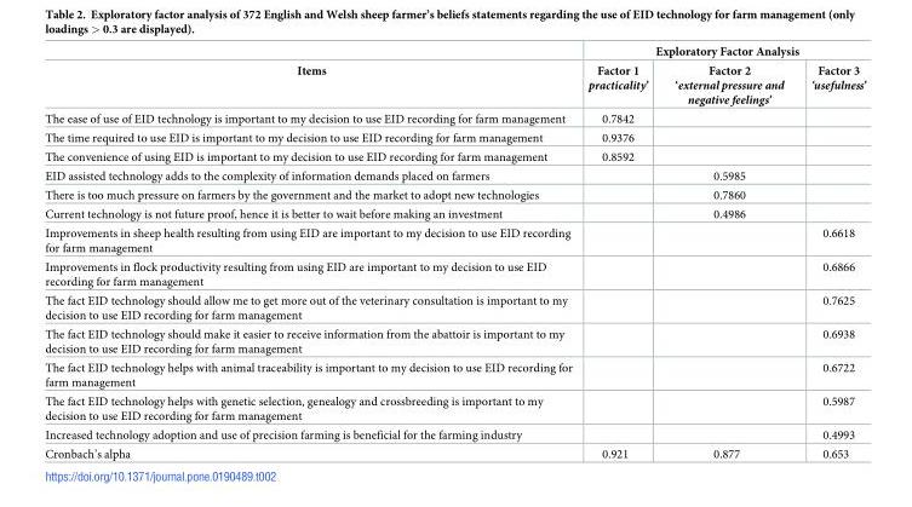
<table><thead><tr><td rowspan="2">Items</td><td colspan="3">Exploratory Factor Analysis</td></tr><tr><td>Factor 1 practicality’</td><td>Factor 2 ‘external pressure and negative feelings’</td><td>Factor 3 ‘usefulness’</td></tr></thead><tbody><tr><td>The ease of use of EID technology is important to my decision to use EID recording for farm management</td><td>0.7842</td><td></td><td></td></tr><tr><td>The time required to use EID is important to my decision to use EID recording for farm management</td><td>0.9376</td><td></td><td></td></tr><tr><td>The convenience of using EID is important to my decision to use EID recording for farm management</td><td>0.8592</td><td></td><td></td></tr><tr><td>EID assisted technology adds to the complexity of information demands placed on farmers</td><td></td><td>0.5985</td><td></td></tr><tr><td>There is too much pressure on farmers by the government and the market to adopt new technologies</td><td></td><td>0.7860</td><td></td></tr><tr><td>Current technology is not future proof, hence it is better to wait before making an investment</td><td></td><td>0.4986</td><td></td></tr><tr><td>Improvements in sheep health resulting from using EID are important to my decision to use EID recording for farm management</td><td></td><td></td><td>0.6618</td></tr><tr><td>Improvements in flock productivity resulting from using EID are important to my decision to use EID recording for farm management</td><td></td><td></td><td>0.6866</td></tr><tr><td>The fact EID technology should allow me to get more out of the veterinary consultation is important to my decision to use EID recording for farm management</td><td></td><td></td><td>0.7625</td></tr><tr><td>The fact EID technology should make it easier to receive information from the abattoir is important to my decision to use EID recording for farm management</td><td></td><td></td><td>0.6938</td></tr><tr><td>The fact EID technology helps with animal traceability is important to my decision to use EID recording for farm management</td><td></td><td></td><td>0.6722</td></tr><tr><td>The fact EID technology helps with genetic selection, genealogy and crossbreeding is important to my decision to use EID recording for farm management</td><td></td><td></td><td>0.5987</td></tr><tr><td>Increased technology adoption and use of precision farming is beneficial for the farming industry</td><td></td><td></td><td>0.4993</td></tr><tr><td>Cronbach’s alpha</td><td>0.921</td><td>0.877</td><td>0.653</td></tr></tbody></table>